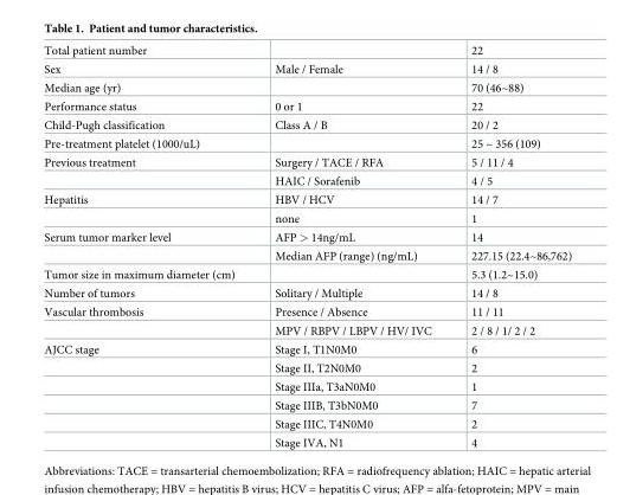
<table><tbody><tr><td>Total patient number</td><td></td><td>22</td></tr><tr><td>Sex</td><td>Male / Female</td><td>14 / 8</td></tr><tr><td>Median age (yr)</td><td></td><td>70 (46~88)</td></tr><tr><td>Performance status</td><td>0 or 1</td><td>22</td></tr><tr><td>Child-Pugh classification</td><td>Class A / B</td><td>20 / 2</td></tr><tr><td>Pre-treatment platelet (1000/uL)</td><td></td><td>25 ~ 356 (109)</td></tr><tr><td rowspan="2">Previous treatment</td><td>Surgery / TACE / RFA</td><td>5 / 11 / 4</td></tr><tr><td>HAIC / Sorafenib</td><td>4 / 5</td></tr><tr><td rowspan="2">Hepatitis</td><td>HBV / HCV</td><td>14 / 7</td></tr><tr><td>none</td><td>1</td></tr><tr><td rowspan="2">Serum tumor marker level</td><td>AFP &gt; 14ng/mL</td><td>14</td></tr><tr><td>Median AFP (range) (ng/mL)</td><td>227.15 (22.4~86,762)</td></tr><tr><td>Tumor size in maximum diameter (cm)</td><td></td><td>5.3 (1.2~15.0)</td></tr><tr><td>Number of tumors</td><td>Solitary / Multiple</td><td>14 / 8</td></tr><tr><td rowspan="2">Vascular thrombosis</td><td>Presence / Absence</td><td>11 / 11</td></tr><tr><td>MPV / RBPV / LBPV / HV/ IVC</td><td>2 / 8 / 1/ 2 / 2</td></tr><tr><td rowspan="6">AJCC stage</td><td>Stage I, T1N0M0</td><td>6</td></tr><tr><td>Stage II, T2N0M0</td><td>2</td></tr><tr><td>Stage IIIa, T3aN0M0</td><td>1</td></tr><tr><td>Stage IIIB, T3bN0M0</td><td>7</td></tr><tr><td>Stage IIIC, T4N0M0</td><td>2</td></tr><tr><td>Stage IVA, N1</td><td>4</td></tr></tbody></table>